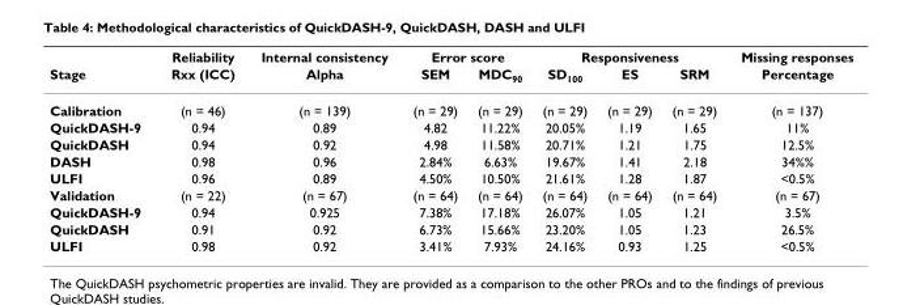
<table><thead><tr><td rowspan="2">Stage</td><td rowspan="2">Reliability Rxx (ICC)</td><td rowspan="2">Internal consistency Alpha</td><td colspan="2">Error score</td><td colspan="3">Responsiveness</td><td rowspan="2">Missing responses Percentage</td></tr><tr><td>SEM</td><td>MDC<sub>90</sub></td><td>SD<sub>100</sub></td><td>ES</td><td>SRM</td></tr></thead><tbody><tr><td>Calibration</td><td>(n = 46)</td><td>(n = 139)</td><td>(n = 29)</td><td>(n = 29)</td><td>(n = 29)</td><td>(n = 29)</td><td>(n = 29)</td><td>(n = 137)</td></tr><tr><td>QuickDASH-9</td><td>0.94</td><td>0.89</td><td>4.82</td><td>11.22%</td><td>20.05%</td><td>1.19</td><td>1.65</td><td>11%</td></tr><tr><td>QuickDASH</td><td>0.94</td><td>0.92</td><td>4.98</td><td>11.58%</td><td>20.71%</td><td>1.21</td><td>1.75</td><td>12.5%</td></tr><tr><td>DASH</td><td>0.98</td><td>0.96</td><td>2.84%</td><td>6.63%</td><td>19.67%</td><td>1.41</td><td>2.18</td><td>34%%</td></tr><tr><td>ULFI</td><td>0.96</td><td>0.89</td><td>4.50%</td><td>10.50%</td><td>21.61%</td><td>1.28</td><td>1.87</td><td>&lt;0.5%</td></tr><tr><td>Validation</td><td>(n = 22)</td><td>(n = 67)</td><td>(n = 64)</td><td>(n = 64)</td><td>(n = 64)</td><td>(n = 64)</td><td>(n = 64)</td><td>(n = 67)</td></tr><tr><td>QuickDASH-9</td><td>0.94</td><td>0.925</td><td>7.38%</td><td>17.18%</td><td>26.07%</td><td>1.05</td><td>1.21</td><td>3.5%</td></tr><tr><td>QuickDASH</td><td>0.91</td><td>0.92</td><td>6.73%</td><td>15.66%</td><td>23.20%</td><td>1.05</td><td>1.23</td><td>26.5%</td></tr><tr><td>ULFI</td><td>0.98</td><td>0.92</td><td>3.41%</td><td>7.93%</td><td>24.16%</td><td>0.93</td><td>1.25</td><td>&lt;0.5%</td></tr></tbody></table>